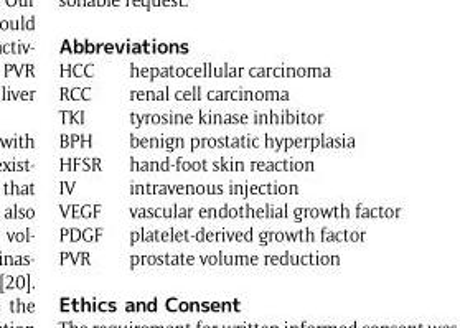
<table><tbody><tr><td>HCC</td><td>hepatocellular carcinoma</td></tr><tr><td>RCC</td><td>renal cell carcinoma</td></tr><tr><td>TKI</td><td>tyrosine kinase inhibitor</td></tr><tr><td>BPH</td><td>benign prostatic hyperplasia</td></tr><tr><td>HFSR</td><td>hand-foot skin reaction</td></tr><tr><td>IV</td><td>intravenous injection</td></tr><tr><td>VEGF</td><td>vascular endothelial growth factor</td></tr><tr><td>PDGF</td><td>platelet-derived growth factor</td></tr><tr><td>PVR</td><td>prostate volume reduction</td></tr></tbody></table>